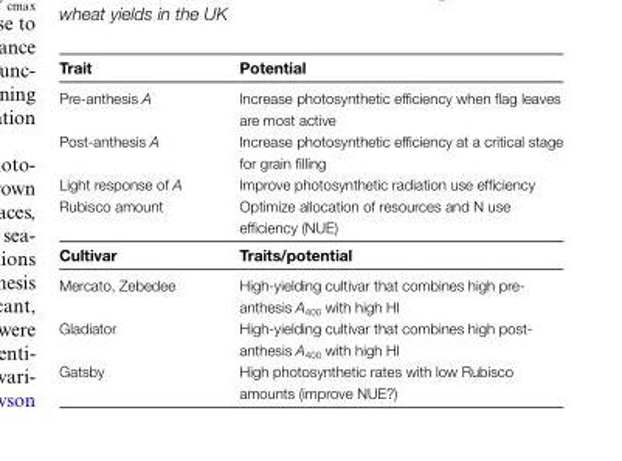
<table><thead><tr><td>Trait</td><td>Potential</td></tr></thead><tbody><tr><td>Pre-anthesis A</td><td>Increase photosynthetic efficiency when flag leaves are most active</td></tr><tr><td>Post-anthesis A</td><td>Increase photosynthetic efficiency at a critical stage for grain filling</td></tr><tr><td>Light response of A</td><td>Improve photosynthetic radiation use efficiency</td></tr><tr><td>Rubisco amount</td><td>Optimize allocation of resources and N use efficiency (NUE)</td></tr><tr><td>Cultivar</td><td>Traits/potential</td></tr><tr><td>Mercato, Zebedee</td><td>High-yielding cultivar that combines high pre- anthesis A<sub>400</sub> with high HI</td></tr><tr><td>Gladiator</td><td>High-yielding cultivar that combines high post- anthesis A<sub>400</sub> with high HI</td></tr><tr><td>Gatsby</td><td>High photosynthetic rates with low Rubisco amounts (improve NUE?)</td></tr></tbody></table>